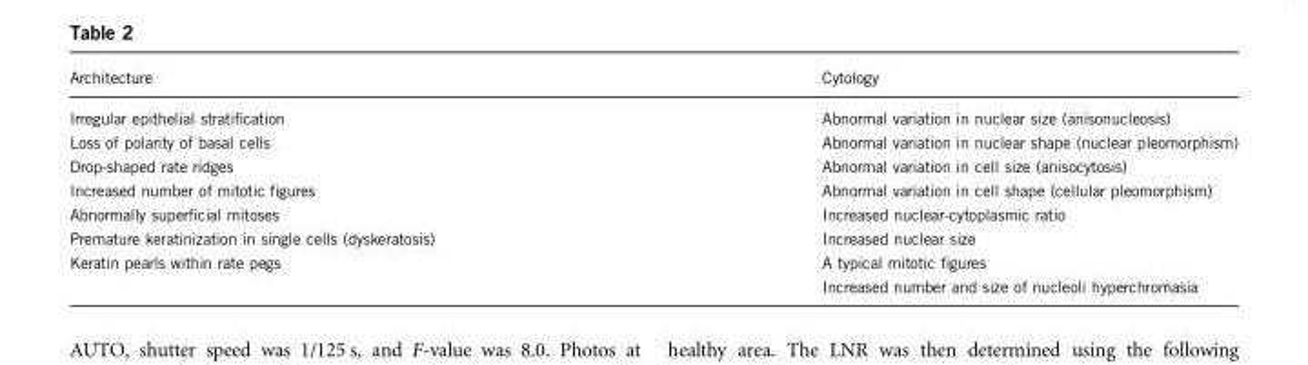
<table><thead><tr><td>Architecture</td><td>Cytology</td></tr></thead><tbody><tr><td>Irregular epithelial stratification</td><td>Abnormal variation in nuclear size (anisonucleosis)</td></tr><tr><td>Loss of polarity of basal cells</td><td>Abnormal variation in nuclear shape (nuclear pleomorphism)</td></tr><tr><td>Drop-shaped rate ridges</td><td>Abnormal variation in cell size (anisocytosis)</td></tr><tr><td>Increased number of mitotic figures</td><td>Abnormal variation in cell shape (cellular pleomorphism)</td></tr><tr><td>Abnormally superficial mitoses</td><td>Increased nuclear-cytoplasmic ratio</td></tr><tr><td>Premature keratinization in single cells (dyskeratosis)</td><td>Increased nuclear size</td></tr><tr><td rowspan="2">Keratin pearls within rate pegs</td><td>A typical mitotic figures</td></tr><tr><td>Increased number and size of nucleoli hyperchromasia</td></tr></tbody></table>